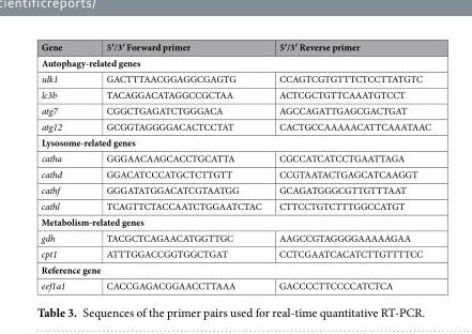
<table><thead><tr><td>Gene</td><td>5′/3′ Forward primer</td><td>5′/3′ Reverse primer</td></tr></thead><tbody><tr><td colspan="3">Autophagy-related genes</td></tr><tr><td>ulk1</td><td>GACTTTAACGGAGGCGAGTG</td><td>CCAGTCGTGTTTCTCCTTATGTC</td></tr><tr><td>lc3b</td><td>TACAGGACATAGGCCGCTAA</td><td>ACTCGCTGTTCAAATGTCCT</td></tr><tr><td>atg7</td><td>CGGCTGAGATCTGGGACA</td><td>AGCCAGATTGAGCGACTGAT</td></tr><tr><td>atg12</td><td>GCGGTAGGGGACACTCCTAT</td><td>CACTGCCAAAAACATTCAAATAAC</td></tr><tr><td colspan="3">Lysosome-related genes</td></tr><tr><td>catha</td><td>GGGAACAAGCACCTGCATTA</td><td>CGCCATCATCCTGAATTAGA</td></tr><tr><td>cathd</td><td>GGACATCCCATGCTCTTGTT</td><td>CCGTAATACTGAGCATCAAGGT</td></tr><tr><td>cathf</td><td>GGGATATGGACATCGTAATGG</td><td>GCAGATGGGCGTTGTTTAAT</td></tr><tr><td>cathl</td><td>TCAGTTCTACCAATCTGGAATCTAC</td><td>CTTCCTGTCTTTGGCCATGT</td></tr><tr><td colspan="3">Metabolism-related genes</td></tr><tr><td>gdh</td><td>TACGCTCAGAACATGGTTGC</td><td>AAGCCGTAGGGGAAAAAGAA</td></tr><tr><td>cpt1</td><td>ATTTGGACCGGTGGCTGAT</td><td>CCTCGAATCACATCTTGTTTTCC</td></tr><tr><td colspan="3">Reference gene</td></tr><tr><td>eef1a1</td><td>CACCGAGACGGAACCTTAAA</td><td>GACCCCTTCCCCATCTCA</td></tr></tbody></table>